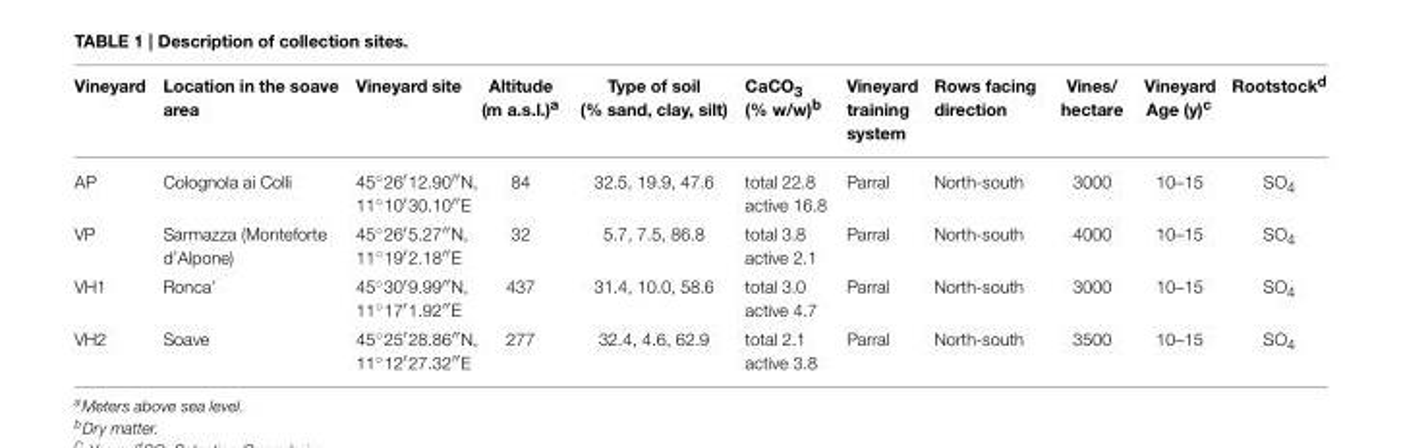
<table><thead><tr><td>Vineyard</td><td>Location in the soave area</td><td>Vineyard site</td><td>Altitude (m a.s.l.)<sup>a</sup></td><td>Type of soil (% sand, clay, silt)</td><td>CaCO<sub>3</sub> (% w/w)<sup>b</sup></td><td>Vineyard training system</td><td>Rows facing direction</td><td>Vines/ hectare</td><td>Vineyard Age (y)<sup>c</sup></td><td>Rootstock<sup>d</sup></td></tr></thead><tbody><tr><td>AP</td><td>Colognola ai Colli</td><td>45◦26′12.90′′N, 11◦10′30.10′′E</td><td>84</td><td>32.5, 19.9, 47.6</td><td>total 22.8 active 16.8</td><td>Parral</td><td>North-south</td><td>3000</td><td>10–15</td><td>SO<sub>4</sub></td></tr><tr><td>VP</td><td>Sarmazza (Monteforte d’Alpone)</td><td>45◦26′5.27′′N, 11◦19′2.18′′E</td><td>32</td><td>5.7, 7.5, 86.8</td><td>total 3.8 active 2.1</td><td>Parral</td><td>North-south</td><td>4000</td><td>10–15</td><td>SO<sub>4</sub></td></tr><tr><td>VH1</td><td>Ronca’</td><td>45◦30′9.99′′N, 11◦17′1.92′′E</td><td>437</td><td>31.4, 10.0, 58.6</td><td>total 3.0 active 4.7</td><td>Parral</td><td>North-south</td><td>3000</td><td>10–15</td><td>SO<sub>4</sub></td></tr><tr><td>VH2</td><td>Soave</td><td>45◦25′28.86′′N, 11◦12′27.32′′E</td><td>277</td><td>32.4, 4.6, 62.9</td><td>total 2.1 active 3.8</td><td>Parral</td><td>North-south</td><td>3500</td><td>10–15</td><td>SO<sub>4</sub></td></tr></tbody></table>